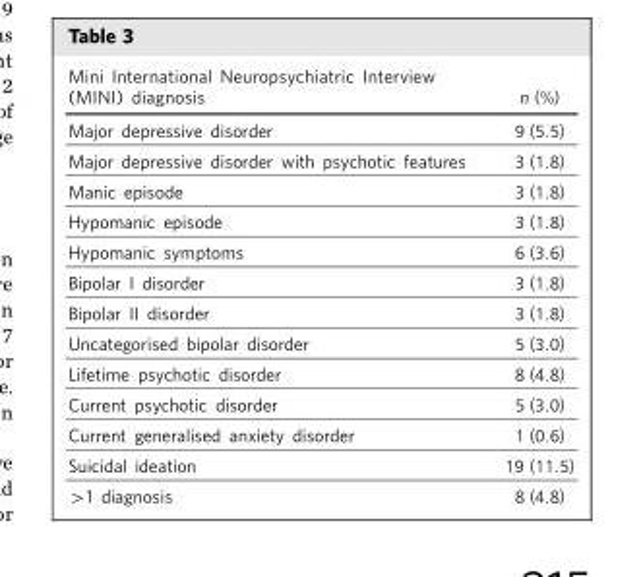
<table><thead><tr><td>Mini International Neuropsychiatric Interview (MINI) diagnosis</td><td>n (%)</td></tr></thead><tbody><tr><td>Major depressive disorder</td><td>9 (5.5)</td></tr><tr><td>Major depressive disorder with psychotic features</td><td>3 (1.8)</td></tr><tr><td>Manic episode</td><td>3 (1.8)</td></tr><tr><td>Hypomanic episode</td><td>3 (1.8)</td></tr><tr><td>Hypomanic symptoms</td><td>6 (3.6)</td></tr><tr><td>Bipolar I disorder</td><td>3 (1.8)</td></tr><tr><td>Bipolar II disorder</td><td>3 (1.8)</td></tr><tr><td>Uncategorised bipolar disorder</td><td>5 (3.0)</td></tr><tr><td>Lifetime psychotic disorder</td><td>8 (4.8)</td></tr><tr><td>Current psychotic disorder</td><td>5 (3.0)</td></tr><tr><td>Current generalised anxiety disorder</td><td>1 (0.6)</td></tr><tr><td>Suicidal ideation</td><td>19 (11.5)</td></tr><tr><td>&gt;1 diagnosis</td><td>8 (4.8)</td></tr></tbody></table>